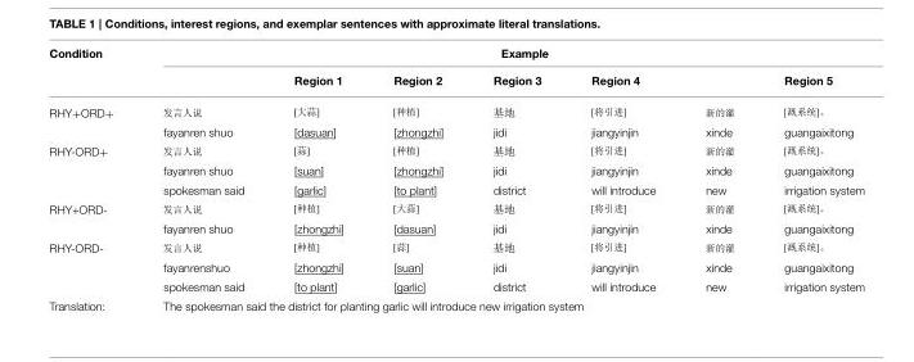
<table><thead><tr><td rowspan="2">Condition</td><td colspan="7">Example</td></tr><tr><td></td><td>Region 1</td><td>Region 2</td><td>Region 3</td><td>Region 4</td><td></td><td>Region 5</td></tr></thead><tbody><tr><td colspan="8">RHY+ORD+</td></tr><tr><td></td><td>fayanren shuo</td><td>[dasuan]</td><td>[zhongzhi]</td><td>jidi</td><td>jiangyinjin</td><td>xinde</td><td>guangaixitong</td></tr><tr><td colspan="8">RHY-ORD+</td></tr><tr><td></td><td>fayanren shuo</td><td>[suan]</td><td>[zhongzhi]</td><td>jidi</td><td>jiangyinjin</td><td>xinde</td><td>guangaixitong</td></tr><tr><td></td><td>spokesman said</td><td>[garlic]</td><td>[to plant]</td><td>district</td><td>will introduce</td><td>new</td><td>irrigation system</td></tr><tr><td colspan="8">RHY+ORD-</td></tr><tr><td></td><td>fayanren shuo</td><td>[zhongzhi]</td><td>[dasuan]</td><td>jidi</td><td>jiangyinjin</td><td>xinde</td><td>guangaixitong</td></tr><tr><td colspan="8">RHY-ORD-</td></tr><tr><td></td><td>fayanrenshuo</td><td>[zhongzhi]</td><td>[suan]</td><td>jidi</td><td>jiangyinjin</td><td>xinde</td><td>guangaixitong</td></tr><tr><td></td><td>spokesman said</td><td>[to plant]</td><td>[garlic]</td><td>district</td><td>will introduce</td><td>new</td><td>irrigation system</td></tr><tr><td>Translation:</td><td colspan="7">The spokesman said the district for planting garlic will introduce new irrigation system</td></tr></tbody></table>